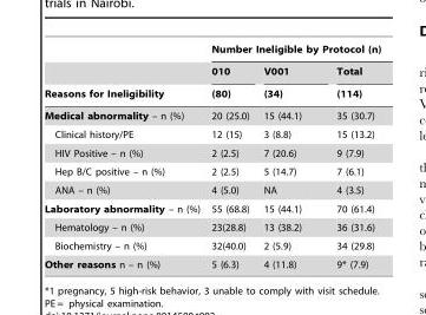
<table><thead><tr><td rowspan="3">Reasons for Ineligibility</td><td colspan="3">Number Ineligible by Protocol (n)</td></tr><tr><td rowspan="2">010 (80)</td><td rowspan="2">V001 (34)</td><td rowspan="2">Total (114)</td></tr><tr></tr></thead><tbody><tr><td>Medical abnormality – n (%)</td><td>20 (25.0)</td><td>15 (44.1)</td><td>35 (30.7)</td></tr><tr><td>Clinical history/PE</td><td>12 (15)</td><td>3 (8.8)</td><td>15 (13.2)</td></tr><tr><td>HIV Positive – n (%)</td><td>2 (2.5)</td><td>7 (20.6)</td><td>9 (7.9)</td></tr><tr><td>Hep B/C positive – n (%)</td><td>2 (2.5)</td><td>5 (14.7)</td><td>7 (6.1)</td></tr><tr><td>ANA – n (%)</td><td>4 (5.0)</td><td>NA</td><td>4 (3.5)</td></tr><tr><td>Laboratory abnormality – n (%)</td><td>55 (68.8)</td><td>15 (44.1)</td><td>70 (61.4)</td></tr><tr><td>Hematology – n (%)</td><td>23(28.8)</td><td>13 (38.2)</td><td>36 (31.6)</td></tr><tr><td>Biochemistry – n (%)</td><td>32(40.0)</td><td>2 (5.9)</td><td>34 (29.8)</td></tr><tr><td>Other reasons n – n (%)</td><td>5 (6.3)</td><td>4 (11.8)</td><td>9* (7.9)</td></tr></tbody></table>